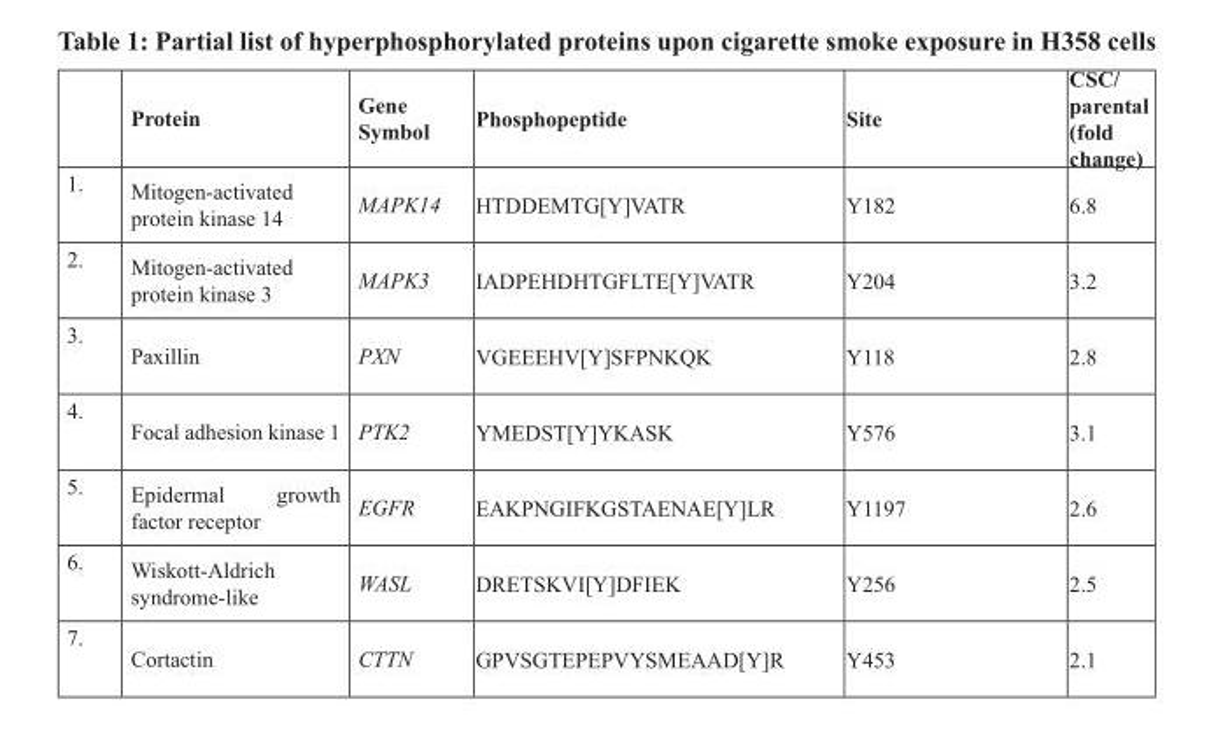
<table><thead><tr><td></td><td>Protein</td><td>Gene Symbol</td><td>Phosphopeptide</td><td>Site</td><td>CSC/ parental (fold change)</td></tr></thead><tbody><tr><td>1.</td><td>Mitogen-activated protein kinase 14</td><td>MAPK14</td><td>HTDDEMTG[Y]VATR</td><td>Y182</td><td>6.8</td></tr><tr><td>2.</td><td>Mitogen-activated protein kinase 3</td><td>MAPK3</td><td>IADPEHDHTGFLTE[Y]VATR</td><td>Y204</td><td>3.2</td></tr><tr><td>3.</td><td>Paxillin</td><td>PXN</td><td>VGEEEHV[Y]SFPNKQK</td><td>Y118</td><td>2.8</td></tr><tr><td>4.</td><td>Focal adhesion kinase 1</td><td>PTK2</td><td>YMEDST[Y]YKASK</td><td>Y576</td><td>3.1</td></tr><tr><td>5.</td><td>Epidermal growth factor receptor</td><td>EGFR</td><td>EAKPNGIFKGSTAENAE[Y]LR</td><td>Y1197</td><td>2.6</td></tr><tr><td>6.</td><td>Wiskott-Aldrich syndrome-like</td><td>WASL</td><td>DRETSKVI[Y]DFIEK</td><td>Y256</td><td>2.5</td></tr><tr><td>7.</td><td>Cortactin</td><td>CTTN</td><td>GPVSGTEPEPVYSMEAAD[Y]R</td><td>Y453</td><td>2.1</td></tr></tbody></table>